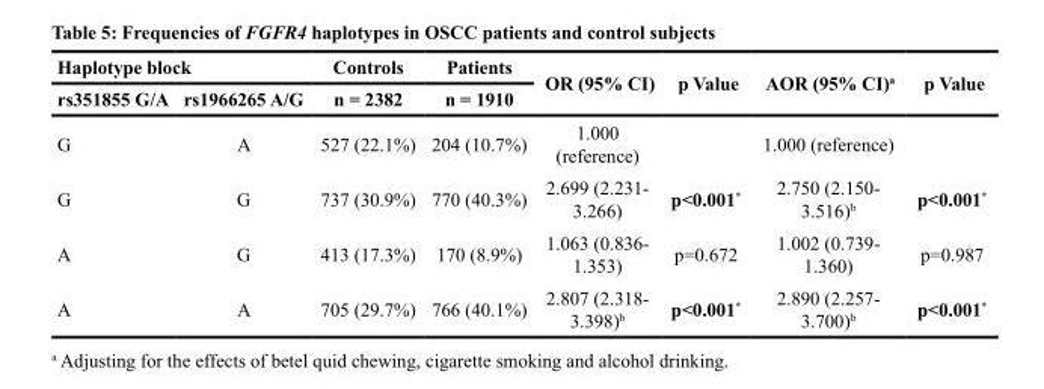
<table><thead><tr><td colspan="2">Haplotype block</td><td rowspan="2">Controls n = 2382</td><td rowspan="2">Patients n = 1910</td><td rowspan="2">OR (95% CI)</td><td rowspan="2">p Value</td><td rowspan="2">AOR (95% CI)<sup>a</sup></td><td rowspan="2">p Value</td></tr><tr><td>rs351855 G/A</td><td>rs1966265 A/G</td></tr></thead><tbody><tr><td>G</td><td>A</td><td>527 (22.1%)</td><td>204 (10.7%)</td><td>1.000 (reference)</td><td></td><td>1.000 (reference)</td><td></td></tr><tr><td>G</td><td>G</td><td>737 (30.9%)</td><td>770 (40.3%)</td><td>2.699 (2.231- 3.266)</td><td>p&lt;0.001*</td><td>2.750 (2.150- 3.516)<sup>b</sup></td><td>p&lt;0.001*</td></tr><tr><td>A</td><td>G</td><td>413 (17.3%)</td><td>170 (8.9%)</td><td>1.063 (0.836- 1.353)</td><td>p=0.672</td><td>1.002 (0.739- 1.360)</td><td>p=0.987</td></tr><tr><td>A</td><td>A</td><td>705 (29.7%)</td><td>766 (40.1%)</td><td>2.807 (2.318- 3.398)<sup>b</sup></td><td>p&lt;0.001*</td><td>2.890 (2.257- 3.700)<sup>b</sup></td><td>p&lt;0.001*</td></tr></tbody></table>